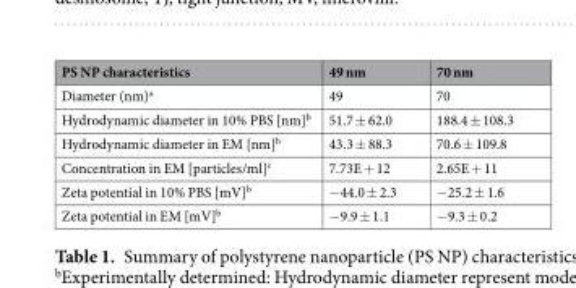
<table><thead><tr><td>PS NP characteristics</td><td>49 nm</td><td>70 nm</td></tr></thead><tbody><tr><td>Diameter (nm)<sup>a</sup></td><td>49</td><td>70</td></tr><tr><td>Hydrodynamic diameter in 10% PBS [nm]<sup>b</sup></td><td>51.7 ± 62.0</td><td>188.4 ± 108.3</td></tr><tr><td>Hydrodynamic diameter in EM [nm]<sup>b</sup></td><td>43.3 ± 88.3</td><td>70.6 ± 109.8</td></tr><tr><td>Concentration in EM [particles/ml]<sup>c</sup></td><td>7.73E + 12</td><td>2.65E + 11</td></tr><tr><td>Zeta potential in 10% PBS [mV]<sup>b</sup></td><td>−44.0 ± 2.3</td><td>−25.2 ± 1.6</td></tr><tr><td>Zeta potential in EM [mV]<sup>b</sup></td><td>−9.9 ± 1.1</td><td>−9.3 ± 0.2</td></tr></tbody></table>